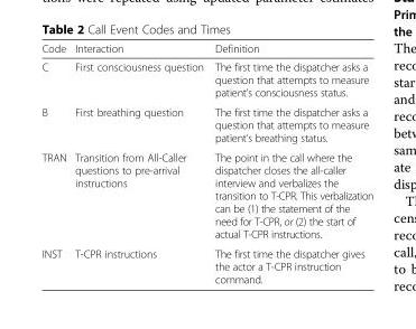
<table><thead><tr><td>Code</td><td>Interaction</td><td>Definition</td></tr></thead><tbody><tr><td>C</td><td>First consciousness question</td><td>The first time the dispatcher asks a question that attempts to measure patient’s consciousness status.</td></tr><tr><td>B</td><td>First breathing question</td><td>The first time the dispatcher asks a question that attempts to measure patient’s breathing status.</td></tr><tr><td>TRAN</td><td>Transition from All-Caller questions to pre-arrival instructions</td><td>The point in the call where the dispatcher closes the all-caller interview and verbalizes the transition to T-CPR. This verbalization can be (1) the statement of the need for T-CPR, or (2) the start of actual T-CPR instructions.</td></tr><tr><td>INST</td><td>T-CPR instructions</td><td>The first time the dispatcher gives the actor a T-CPR instruction command.</td></tr></tbody></table>